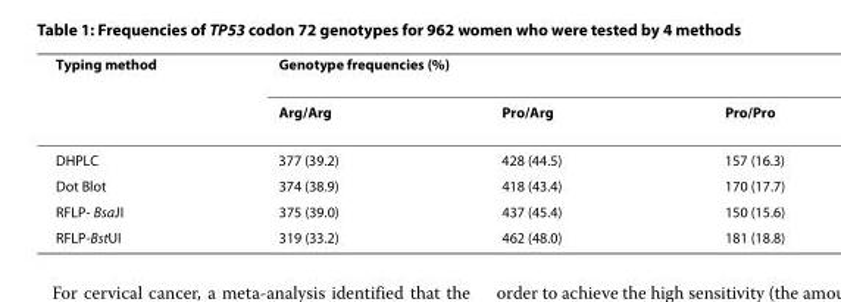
<table><thead><tr><td rowspan="2">Typing method</td><td colspan="3">Genotype frequencies (%)</td></tr><tr><td>Arg/Arg</td><td>Pro/Arg</td><td>Pro/Pro</td></tr></thead><tbody><tr><td>DHPLC</td><td>377 (39.2)</td><td>428 (44.5)</td><td>157 (16.3)</td></tr><tr><td>Dot Blot</td><td>374 (38.9)</td><td>418 (43.4)</td><td>170 (17.7)</td></tr><tr><td>RFLP- BsaJI</td><td>375 (39.0)</td><td>437 (45.4)</td><td>150 (15.6)</td></tr><tr><td>RFLP-BstUI</td><td>319 (33.2)</td><td>462 (48.0)</td><td>181 (18.8)</td></tr></tbody></table>